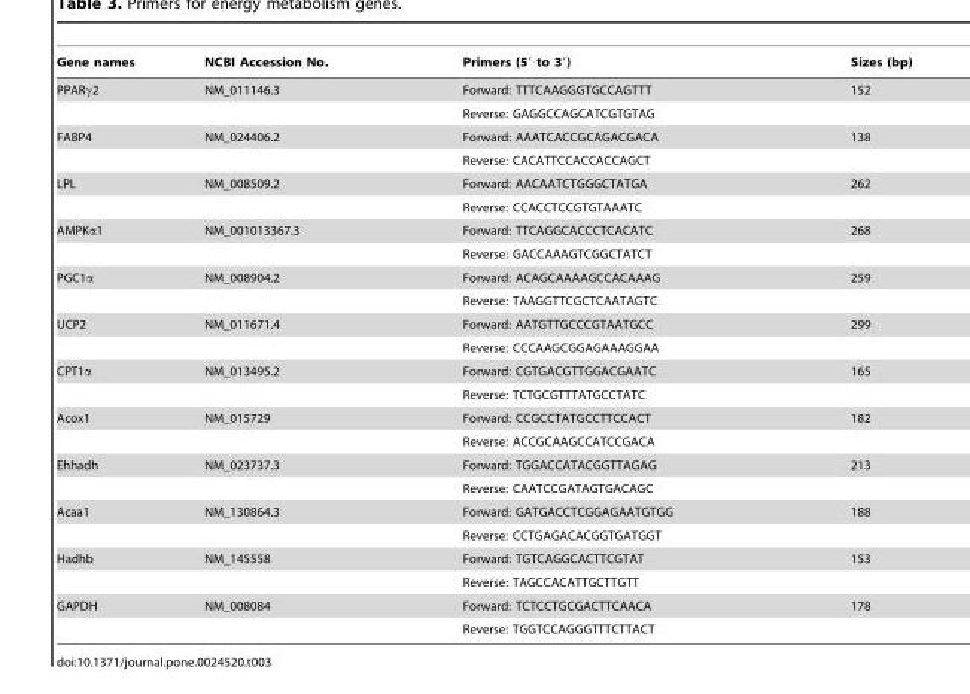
<table><thead><tr><td>Gene names</td><td>NCBI Accession No.</td><td>Primers (5′ to 3′)</td><td>Sizes (bp)</td></tr></thead><tbody><tr><td rowspan="2">PPARγ2</td><td>NM_011146.3</td><td>Forward: TTTCAAGGGTGCCAGTTT</td><td>152</td></tr><tr><td></td><td>Reverse: GAGGCCAGCATCGTGTAG</td><td></td></tr><tr><td rowspan="2">FABP4</td><td>NM_024406.2</td><td>Forward: AAATCACCGCAGACGACA</td><td>138</td></tr><tr><td></td><td>Reverse: CACATTCCACCACCAGCT</td><td></td></tr><tr><td rowspan="2">LPL</td><td>NM_008509.2</td><td>Forward: AACAATCTGGGCTATGA</td><td>262</td></tr><tr><td></td><td>Reverse: CCACCTCCGTGTAAATC</td><td></td></tr><tr><td rowspan="2">AMPKα1</td><td>NM_001013367.3</td><td>Forward: TTCAGGCACCCTCACATC</td><td>268</td></tr><tr><td></td><td>Reverse: GACCAAAGTCGGCTATCT</td><td></td></tr><tr><td rowspan="2">PGC1α</td><td>NM_008904.2</td><td>Forward: ACAGCAAAAGCCACAAAG</td><td>259</td></tr><tr><td></td><td>Reverse: TAAGGTTCGCTCAATAGTC</td><td></td></tr><tr><td rowspan="2">UCP2</td><td>NM_011671.4</td><td>Forward: AATGTTGCCCGTAATGCC</td><td>299</td></tr><tr><td></td><td>Reverse: CCCAAGCGGAGAAAGGAA</td><td></td></tr><tr><td rowspan="2">CPT1α</td><td>NM_013495.2</td><td>Forward: CGTGACGTTGGACGAATC</td><td>165</td></tr><tr><td></td><td>Reverse: TCTGCGTTTATGCCTATC</td><td></td></tr><tr><td rowspan="2">Acox1</td><td>NM_015729</td><td>Forward: CCGCCTATGCCTTCCACT</td><td>182</td></tr><tr><td></td><td>Reverse: ACCGCAAGCCATCCGACA</td><td></td></tr><tr><td rowspan="2">Ehhadh</td><td>NM_023737.3</td><td>Forward: TGGACCATACGGTTAGAG</td><td>213</td></tr><tr><td></td><td>Reverse: CAATCCGATAGTGACAGC</td><td></td></tr><tr><td rowspan="2">Acaa1</td><td>NM_130864.3</td><td>Forward: GATGACCTCGGAGAATGTGG</td><td>188</td></tr><tr><td></td><td>Reverse: CCTGAGACACGGTGATGGT</td><td></td></tr><tr><td rowspan="2">Hadhb</td><td>NM_145558</td><td>Forward: TGTCAGGCACTTCGTAT</td><td>153</td></tr><tr><td></td><td>Reverse: TAGCCACATTGCTTGTT</td><td></td></tr><tr><td rowspan="2">GAPDH</td><td>NM_008084</td><td>Forward: TCTCCTGCGACTTCAACA</td><td>178</td></tr><tr><td></td><td>Reverse: TGGTCCAGGGTTTCTTACT</td><td></td></tr></tbody></table>